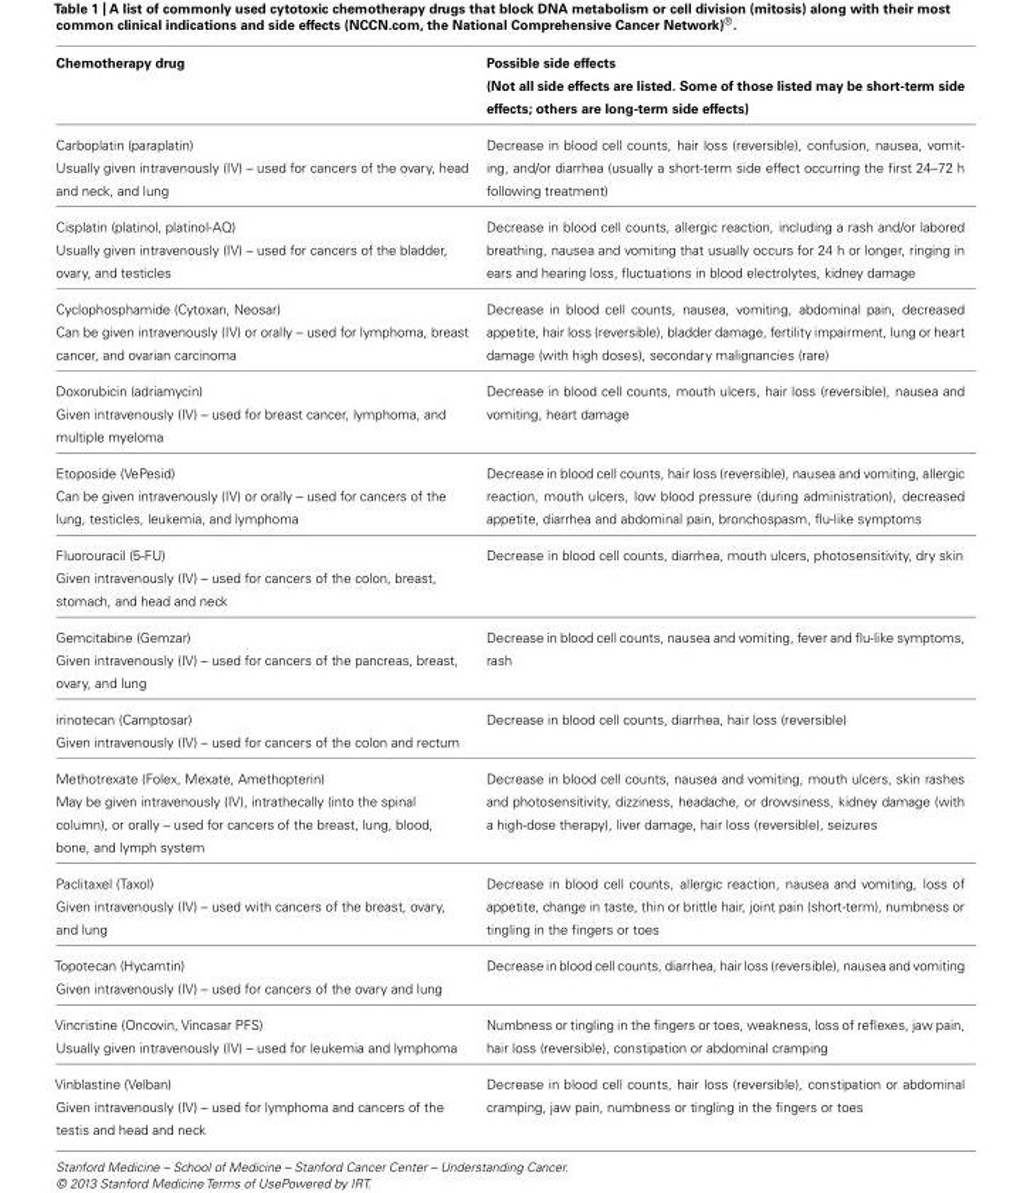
<table><thead><tr><td>Chemotherapy drug</td><td>Possible side effects (Not all side effects are listed. Some of those listed may be short-term side effects; others are long-term side effects)</td></tr></thead><tbody><tr><td>Carboplatin (paraplatin) Usually given intravenously (IV) – used for cancers of the ovary, head and neck, and lung</td><td>Decrease in blood cell counts, hair loss (reversible), confusion, nausea, vomit- ing, and/or diarrhea (usually a short-term side effect occurring the first 24–72 h following treatment)</td></tr><tr><td>Cisplatin (platinol, platinol-AQ) Usually given intravenously (IV) – used for cancers of the bladder, ovary, and testicles</td><td>Decrease in blood cell counts, allergic reaction, including a rash and/or labored breathing, nausea and vomiting that usually occurs for 24 h or longer, ringing in ears and hearing loss, fluctuations in blood electrolytes, kidney damage</td></tr><tr><td>Cyclophosphamide (Cytoxan, Neosar) Can be given intravenously (IV) or orally – used for lymphoma, breast cancer, and ovarian carcinoma</td><td>Decrease in blood cell counts, nausea, vomiting, abdominal pain, decreased appetite, hair loss (reversible), bladder damage, fertility impairment, lung or heart damage (with high doses), secondary malignancies (rare)</td></tr><tr><td>Doxorubicin (adriamycin) Given intravenously (IV) – used for breast cancer, lymphoma, and multiple myeloma</td><td>Decrease in blood cell counts, mouth ulcers, hair loss (reversible), nausea and vomiting, heart damage</td></tr><tr><td>Etoposide (VePesid) Can be given intravenously (IV) or orally – used for cancers of the lung, testicles, leukemia, and lymphoma</td><td>Decrease in blood cell counts, hair loss (reversible), nausea and vomiting, allergic reaction, mouth ulcers, low blood pressure (during administration), decreased appetite, diarrhea and abdominal pain, bronchospasm, flu-like symptoms</td></tr><tr><td>Fluorouracil (5-FU) Given intravenously (IV) – used for cancers of the colon, breast, stomach, and head and neck</td><td>Decrease in blood cell counts, diarrhea, mouth ulcers, photosensitivity, dry skin</td></tr><tr><td>Gemcitabine (Gemzar) Given intravenously (IV) – used for cancers of the pancreas, breast, ovary, and lung</td><td>Decrease in blood cell counts, nausea and vomiting, fever and flu-like symptoms, rash</td></tr><tr><td>irinotecan (Camptosar) Given intravenously (IV) – used for cancers of the colon and rectum</td><td>Decrease in blood cell counts, diarrhea, hair loss (reversible)</td></tr><tr><td>Methotrexate (Folex, Mexate, Amethopterin) May be given intravenously (IV), intrathecally (into the spinal column), or orally – used for cancers of the breast, lung, blood, bone, and lymph system</td><td>Decrease in blood cell counts, nausea and vomiting, mouth ulcers, skin rashes and photosensitivity, dizziness, headache, or drowsiness, kidney damage (with a high-dose therapy), liver damage, hair loss (reversible), seizures</td></tr><tr><td>Paclitaxel (Taxol) Given intravenously (IV) – used with cancers of the breast, ovary, and lung</td><td>Decrease in blood cell counts, allergic reaction, nausea and vomiting, loss of appetite, change in taste, thin or brittle hair, joint pain (short-term), numbness or tingling in the fingers or toes</td></tr><tr><td>Topotecan (Hycamtin) Given intravenously (IV) – used for cancers of the ovary and lung</td><td>Decrease in blood cell counts, diarrhea, hair loss (reversible), nausea and vomiting</td></tr><tr><td>Vincristine (Oncovin, Vincasar PFS) Usually given intravenously (IV) – used for leukemia and lymphoma</td><td>Numbness or tingling in the fingers or toes, weakness, loss of reflexes, jaw pain, hair loss (reversible), constipation or abdominal cramping</td></tr><tr><td>Vinblastine (Velban) Given intravenously (IV) – used for lymphoma and cancers of the testis and head and neck</td><td>Decrease in blood cell counts, hair loss (reversible), constipation or abdominal cramping, jaw pain, numbness or tingling in the fingers or toes</td></tr></tbody></table>